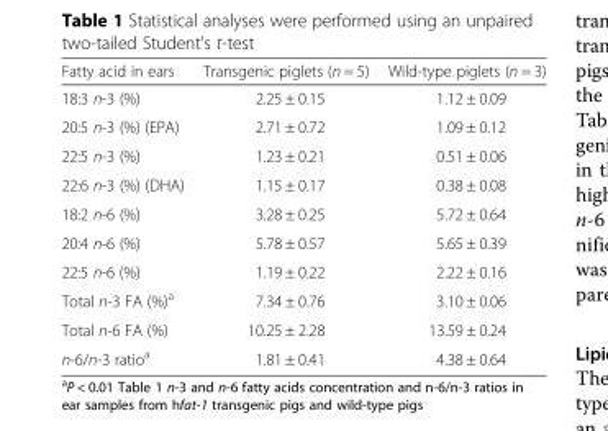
<table><thead><tr><td>Fatty acid in ears</td><td>Transgenic piglets (n = 5)</td><td>Wild-type piglets (n = 3)</td></tr></thead><tbody><tr><td>18:3 n-3 (%)</td><td>2.25 ± 0.15</td><td>1.12 ± 0.09</td></tr><tr><td>20:5 n-3 (%) (EPA)</td><td>2.71 ± 0.72</td><td>1.09 ± 0.12</td></tr><tr><td>22:5 n-3 (%)</td><td>1.23 ± 0.21</td><td>0.51 ± 0.06</td></tr><tr><td>22:6 n-3 (%) (DHA)</td><td>1.15 ± 0.17</td><td>0.38 ± 0.08</td></tr><tr><td>18:2 n-6 (%)</td><td>3.28 ± 0.25</td><td>5.72 ± 0.64</td></tr><tr><td>20:4 n-6 (%)</td><td>5.78 ± 0.57</td><td>5.65 ± 0.39</td></tr><tr><td>22:5 n-6 (%)</td><td>1.19 ± 0.22</td><td>2.22 ± 0.16</td></tr><tr><td>Total n-3 FA (%)<sup>a</sup></td><td>7.34 ± 0.76</td><td>3.10 ± 0.06</td></tr><tr><td>Total n-6 FA (%)</td><td>10.25 ± 2.28</td><td>13.59 ± 0.24</td></tr><tr><td>n-6/n-3 ratio<sup>a</sup></td><td>1.81 ± 0.41</td><td>4.38 ± 0.64</td></tr></tbody></table>